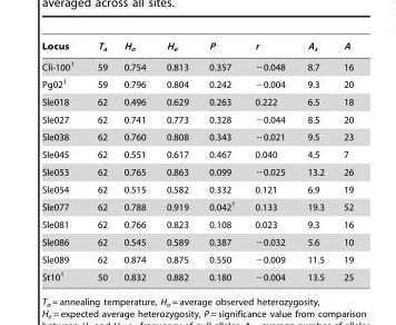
<table><thead><tr><td>Locus</td><td>T<sub>a</sub></td><td>H<sub>o</sub></td><td>H<sub>e</sub></td><td>P</td><td>r</td><td>A<sub>s</sub></td><td>A</td></tr></thead><tbody><tr><td>Cli-100<sup>1</sup></td><td>59</td><td>0.754</td><td>0.813</td><td>0.357</td><td>−0.048</td><td>8.7</td><td>16</td></tr><tr><td>Pg02<sup>1</sup></td><td>59</td><td>0.796</td><td>0.804</td><td>0.242</td><td>−0.004</td><td>9.3</td><td>20</td></tr><tr><td>Sle018</td><td>62</td><td>0.496</td><td>0.629</td><td>0.263</td><td>0.222</td><td>6.5</td><td>18</td></tr><tr><td>Sle027</td><td>62</td><td>0.741</td><td>0.773</td><td>0.328</td><td>−0.044</td><td>8.5</td><td>20</td></tr><tr><td>Sle038</td><td>62</td><td>0.760</td><td>0.808</td><td>0.343</td><td>−0.021</td><td>9.5</td><td>23</td></tr><tr><td>Sle045</td><td>62</td><td>0.551</td><td>0.617</td><td>0.467</td><td>0.040</td><td>4.5</td><td>7</td></tr><tr><td>Sle053</td><td>62</td><td>0.765</td><td>0.863</td><td>0.099</td><td>−0.025</td><td>13.2</td><td>26</td></tr><tr><td>Sle054</td><td>62</td><td>0.515</td><td>0.582</td><td>0.332</td><td>0.121</td><td>6.9</td><td>19</td></tr><tr><td>Sle077</td><td>62</td><td>0.788</td><td>0.919</td><td>0.042†</td><td>0.133</td><td>19.3</td><td>52</td></tr><tr><td>Sle081</td><td>62</td><td>0.766</td><td>0.823</td><td>0.108</td><td>0.023</td><td>9.3</td><td>16</td></tr><tr><td>Sle086</td><td>62</td><td>0.545</td><td>0.589</td><td>0.387</td><td>−0.032</td><td>5.6</td><td>10</td></tr><tr><td>Sle089</td><td>62</td><td>0.874</td><td>0.875</td><td>0.550</td><td>−0.009</td><td>11.5</td><td>19</td></tr><tr><td>St10<sup>1</sup></td><td>50</td><td>0.832</td><td>0.882</td><td>0.180</td><td>−0.004</td><td>13.5</td><td>25</td></tr></tbody></table>